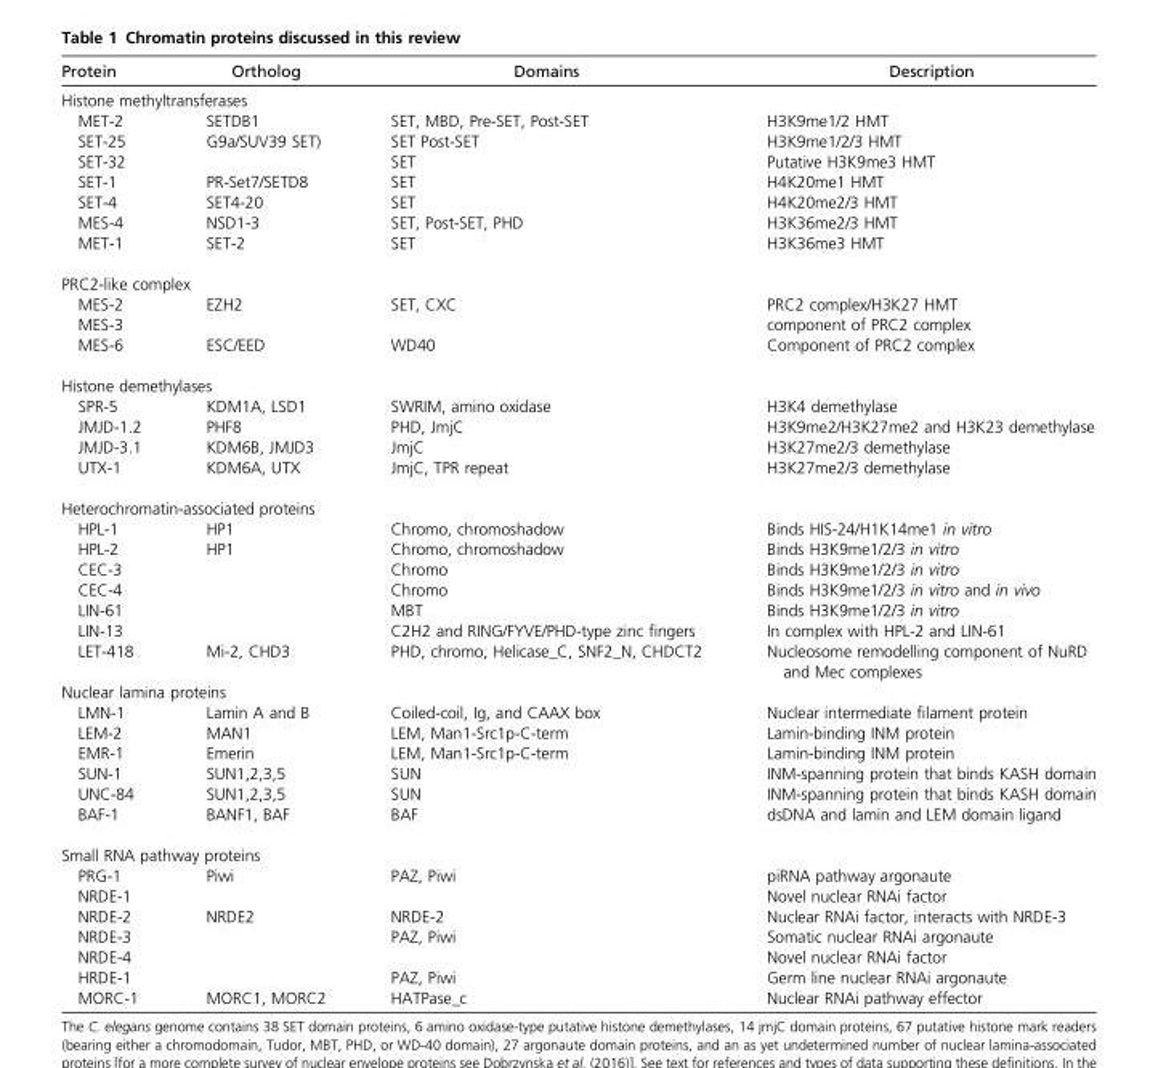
<table><thead><tr><td>Protein</td><td>Ortholog</td><td>Domains</td><td>Description</td></tr></thead><tbody><tr><td colspan="4">Histone methyltransferases</td></tr><tr><td>MET-2</td><td>SETDB1</td><td>SET, MBD, Pre-SET, Post-SET</td><td>H3K9me1/2 HMT</td></tr><tr><td>SET-25</td><td>G9a/SUV39 SET)</td><td>SET Post-SET</td><td>H3K9me1/2/3 HMT</td></tr><tr><td>SET-32</td><td></td><td>SET</td><td>Putative H3K9me3 HMT</td></tr><tr><td>SET-1</td><td>PR-Set7/SETD8</td><td>SET</td><td>H4K20me1 HMT</td></tr><tr><td>SET-4</td><td>SET4-20</td><td>SET</td><td>H4K20me2/3 HMT</td></tr><tr><td>MES-4</td><td>NSD1-3</td><td>SET, Post-SET, PHD</td><td>H3K36me2/3 HMT</td></tr><tr><td>MET-1</td><td>SET-2</td><td>SET</td><td>H3K36me3 HMT</td></tr><tr><td colspan="4">PRC2-like complex</td></tr><tr><td>MES-2</td><td>EZH2</td><td>SET, CXC</td><td>PRC2 complex/H3K27 HMT</td></tr><tr><td>MES-3</td><td></td><td></td><td>component of PRC2 complex</td></tr><tr><td>MES-6</td><td>ESC/EED</td><td>WD40</td><td>Component of PRC2 complex</td></tr><tr><td colspan="4">Histone demethylases</td></tr><tr><td>SPR-5</td><td>KDM1A, LSD1</td><td>SWRIM, amino oxidase</td><td>H3K4 demethylase</td></tr><tr><td>JMJD-1.2</td><td>PHF8</td><td>PHD, JmjC</td><td>H3K9me2/H3K27me2 and H3K23 demethylase</td></tr><tr><td>JMJD-3.1</td><td>KDM6B, JMJD3</td><td>JmjC</td><td>H3K27me2/3 demethylase</td></tr><tr><td>UTX-1</td><td>KDM6A, UTX</td><td>JmjC, TPR repeat</td><td>H3K27me2/3 demethylase</td></tr><tr><td colspan="4">Heterochromatin-associated proteins</td></tr><tr><td>HPL-1</td><td>HP1</td><td>Chromo, chromoshadow</td><td>Binds HIS-24/H1K14me1 in vitro</td></tr><tr><td>HPL-2</td><td>HP1</td><td>Chromo, chromoshadow</td><td>Binds H3K9me1/2/3 in vitro</td></tr><tr><td>CEC-3</td><td></td><td>Chromo</td><td>Binds H3K9me1/2/3 in vitro</td></tr><tr><td>CEC-4</td><td></td><td>Chromo</td><td>Binds H3K9me1/2/3 in vitro and in vivo</td></tr><tr><td>LIN-61</td><td></td><td>MBT</td><td>Binds H3K9me1/2/3 in vitro</td></tr><tr><td>LIN-13</td><td></td><td>C2H2 and RING/FYVE/PHD-type zinc fingers</td><td>In complex with HPL-2 and LIN-61</td></tr><tr><td>LET-418</td><td>Mi-2, CHD3</td><td>PHD, chromo, Helicase_C, SNF2_N, CHDCT2</td><td>Nucleosome remodelling component of NuRD and Mec complexes</td></tr><tr><td colspan="4">Nuclear lamina proteins</td></tr><tr><td>LMN-1</td><td>Lamin A and B</td><td>Coiled-coil, Ig, and CAAX box</td><td>Nuclear intermediate filament protein</td></tr><tr><td>LEM-2</td><td>MAN1</td><td>LEM, Man1-Src1p-C-term</td><td>Lamin-binding INM protein</td></tr><tr><td>EMR-1</td><td>Emerin</td><td>LEM, Man1-Src1p-C-term</td><td>Lamin-binding INM protein</td></tr><tr><td>SUN-1</td><td>SUN1,2,3,5</td><td>SUN</td><td>INM-spanning protein that binds KASH domain</td></tr><tr><td>UNC-84</td><td>SUN1,2,3,5</td><td>SUN</td><td>INM-spanning protein that binds KASH domain</td></tr><tr><td>BAF-1</td><td>BANF1, BAF</td><td>BAF</td><td>dsDNA and lamin and LEM domain ligand</td></tr><tr><td colspan="4">Small RNA pathway proteins</td></tr><tr><td>PRG-1</td><td>Piwi</td><td>PAZ, Piwi</td><td>piRNA pathway argonaute</td></tr><tr><td>NRDE-1</td><td></td><td></td><td>Novel nuclear RNAi factor</td></tr><tr><td>NRDE-2</td><td>NRDE2</td><td>NRDE-2</td><td>Nuclear RNAi factor, interacts with NRDE-3</td></tr><tr><td>NRDE-3</td><td></td><td>PAZ, Piwi</td><td>Somatic nuclear RNAi argonaute</td></tr><tr><td>NRDE-4</td><td></td><td></td><td>Novel nuclear RNAi factor</td></tr><tr><td>HRDE-1</td><td></td><td>PAZ, Piwi</td><td>Germ line nuclear RNAi argonaute</td></tr><tr><td>MORC-1</td><td>MORC1, MORC2</td><td>HATPase_c</td><td>Nuclear RNAi pathway effector</td></tr></tbody></table>